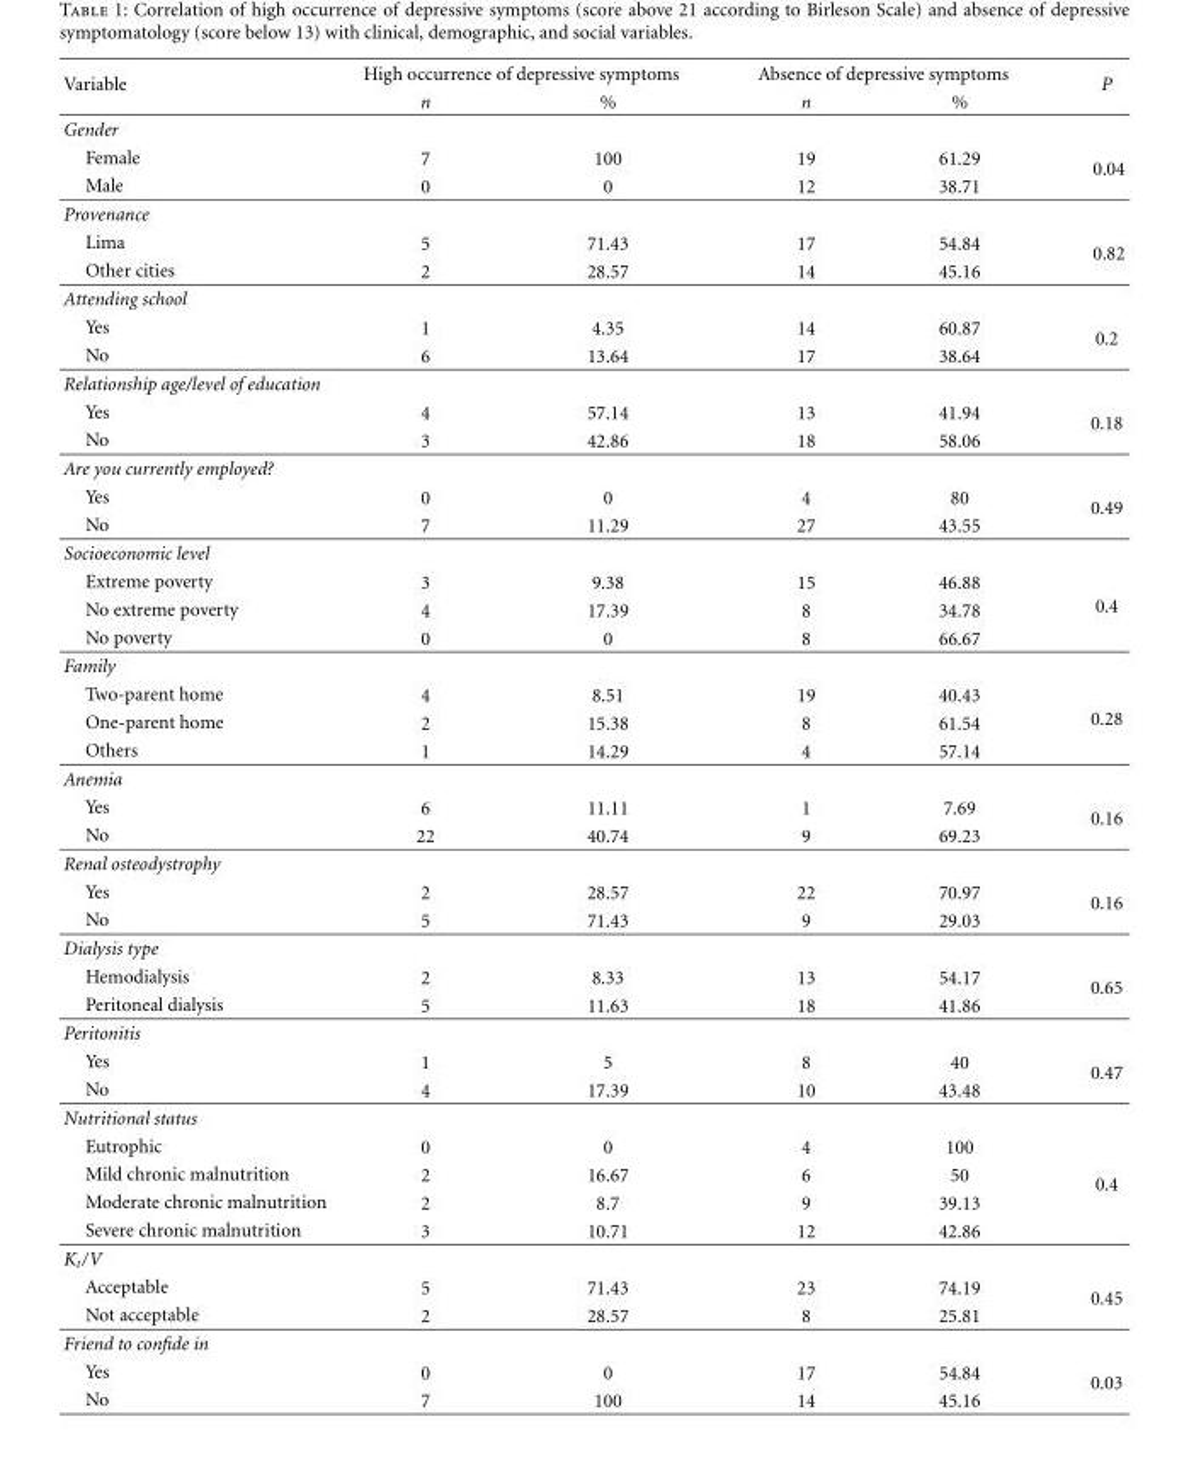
<table><thead><tr><td rowspan="2">Variable</td><td colspan="2">High occurrence of depressive symptoms</td><td colspan="2">Absence of depressive symptoms</td><td rowspan="2">P</td></tr><tr><td>n</td><td>%</td><td>n</td><td>%</td></tr></thead><tbody><tr><td colspan="6">Gender</td></tr><tr><td>Female</td><td>7</td><td>100</td><td>19</td><td>61.29</td><td rowspan="2">0.04</td></tr><tr><td>Male</td><td>0</td><td>0</td><td>12</td><td>38.71</td></tr><tr><td colspan="6">Provenance</td></tr><tr><td>Lima</td><td>5</td><td>71.43</td><td>17</td><td>54.84</td><td rowspan="2">0.82</td></tr><tr><td>Other cities</td><td>2</td><td>28.57</td><td>14</td><td>45.16</td></tr><tr><td colspan="6">Attending school</td></tr><tr><td>Yes</td><td>1</td><td>4.35</td><td>14</td><td>60.87</td><td rowspan="2">0.2</td></tr><tr><td>No</td><td>6</td><td>13.64</td><td>17</td><td>38.64</td></tr><tr><td colspan="6">Relationship age/level of education</td></tr><tr><td>Yes</td><td>4</td><td>57.14</td><td>13</td><td>41.94</td><td rowspan="2">0.18</td></tr><tr><td>No</td><td>3</td><td>42.86</td><td>18</td><td>58.06</td></tr><tr><td colspan="6">Are you currently employed?</td></tr><tr><td>Yes</td><td>0</td><td>0</td><td>4</td><td>80</td><td rowspan="2">0.49</td></tr><tr><td>No</td><td>7</td><td>11.29</td><td>27</td><td>43.55</td></tr><tr><td colspan="6">Socioeconomic level</td></tr><tr><td>Extreme poverty</td><td>3</td><td>9.38</td><td>15</td><td>46.88</td><td rowspan="3">0.4</td></tr><tr><td>No extreme poverty</td><td>4</td><td>17.39</td><td>8</td><td>34.78</td></tr><tr><td>No poverty</td><td>0</td><td>0</td><td>8</td><td>66.67</td></tr><tr><td colspan="6">Family</td></tr><tr><td>Two-parent home</td><td>4</td><td>8.51</td><td>19</td><td>40.43</td><td rowspan="3">0.28</td></tr><tr><td>One-parent home</td><td>2</td><td>15.38</td><td>8</td><td>61.54</td></tr><tr><td>Others</td><td>1</td><td>14.29</td><td>4</td><td>57.14</td></tr><tr><td colspan="6">Anemia</td></tr><tr><td>Yes</td><td>6</td><td>11.11</td><td>1</td><td>7.69</td><td rowspan="2">0.16</td></tr><tr><td>No</td><td>22</td><td>40.74</td><td>9</td><td>69.23</td></tr><tr><td colspan="6">Renal osteodystrophy</td></tr><tr><td>Yes</td><td>2</td><td>28.57</td><td>22</td><td>70.97</td><td rowspan="2">0.16</td></tr><tr><td>No</td><td>5</td><td>71.43</td><td>9</td><td>29.03</td></tr><tr><td colspan="6">Dialysis type</td></tr><tr><td>Hemodialysis</td><td>2</td><td>8.33</td><td>13</td><td>54.17</td><td rowspan="2">0.65</td></tr><tr><td>Peritoneal dialysis</td><td>5</td><td>11.63</td><td>18</td><td>41.86</td></tr><tr><td colspan="6">Peritonitis</td></tr><tr><td>Yes</td><td>1</td><td>5</td><td>8</td><td>40</td><td rowspan="2">0.47</td></tr><tr><td>No</td><td>4</td><td>17.39</td><td>10</td><td>43.48</td></tr><tr><td colspan="6">Nutritional status</td></tr><tr><td>Eutrophic</td><td>0</td><td>0</td><td>4</td><td>100</td><td rowspan="4">0.4</td></tr><tr><td>Mild chronic malnutrition</td><td>2</td><td>16.67</td><td>6</td><td>50</td></tr><tr><td>Moderate chronic malnutrition</td><td>2</td><td>8.7</td><td>9</td><td>39.13</td></tr><tr><td>Severe chronic malnutrition</td><td>3</td><td>10.71</td><td>12</td><td>42.86</td></tr><tr><td colspan="6">K<sub>t</sub>/V</td></tr><tr><td>Acceptable</td><td>5</td><td>71.43</td><td>23</td><td>74.19</td><td rowspan="2">0.45</td></tr><tr><td>Not acceptable</td><td>2</td><td>28.57</td><td>8</td><td>25.81</td></tr><tr><td colspan="6">Friend to confide in</td></tr><tr><td>Yes</td><td>0</td><td>0</td><td>17</td><td>54.84</td><td rowspan="2">0.03</td></tr><tr><td>No</td><td>7</td><td>100</td><td>14</td><td>45.16</td></tr></tbody></table>